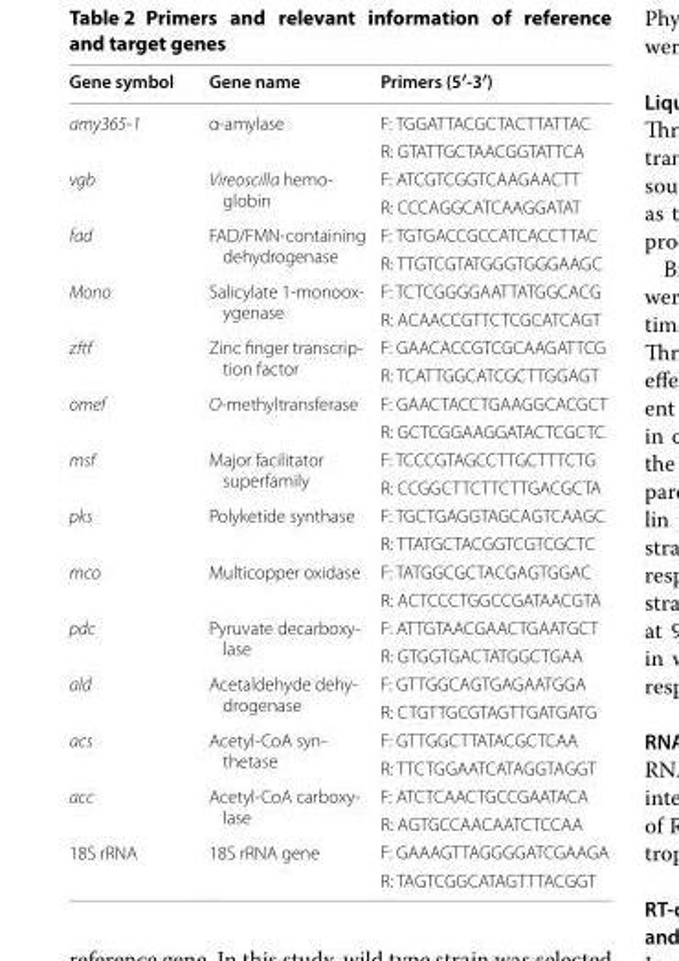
<table><thead><tr><td>Gene symbol</td><td>Gene name</td><td>Primers (5′‑3′)</td></tr></thead><tbody><tr><td rowspan="2">amy365-1</td><td rowspan="2">α-amylase</td><td>F: TGGATTACGCTACTTATTAC</td></tr><tr><td>R: GTATTGCTAACGGTATTCA</td></tr><tr><td rowspan="2">vgb</td><td rowspan="2">Vireoscilla hemo- globin</td><td>F: ATCGTCGGTCAAGAACTT</td></tr><tr><td>R: CCCAGGCATCAAGGATAT</td></tr><tr><td rowspan="2">fad</td><td rowspan="2">FAD/FMN-containing dehydrogenase</td><td>F: TGTGACCGCCATCACCTTAC</td></tr><tr><td>R: TTGTCGTATGGGTGGGAAGC</td></tr><tr><td rowspan="2">Mono</td><td rowspan="2">Salicylate 1-monoox- ygenase</td><td>F: TCTCGGGGAATTATGGCACG</td></tr><tr><td>R: ACAACCGTTCTCGCATCAGT</td></tr><tr><td rowspan="2">zftf</td><td rowspan="2">Zinc finger transcrip- tion factor</td><td>F: GAACACCGTCGCAAGATTCG</td></tr><tr><td>R: TCATTGGCATCGCTTGGAGT</td></tr><tr><td rowspan="2">omef</td><td rowspan="2">O-methyltransferase</td><td>F: GAACTACCTGAAGGCACGCT</td></tr><tr><td>R: GCTCGGAAGGATACTCGCTC</td></tr><tr><td rowspan="2">msf</td><td rowspan="2">Major facilitator superfamily</td><td>F: TCCCGTAGCCTTGCTTTCTG</td></tr><tr><td>R: CCGGCTTCTTCTTGACGCTA</td></tr><tr><td rowspan="2">pks</td><td rowspan="2">Polyketide synthase</td><td>F: TGCTGAGGTAGCAGTCAAGC</td></tr><tr><td>R: TTATGCTACGGTCGTCGCTC</td></tr><tr><td rowspan="2">mco</td><td rowspan="2">Multicopper oxidase</td><td>F: TATGGCGCTACGAGTGGAC</td></tr><tr><td>R: ACTCCCTGGCCGATAACGTA</td></tr><tr><td rowspan="2">pdc</td><td rowspan="2">Pyruvate decarboxy- lase</td><td>F: ATTGTAACGAACTGAATGCT</td></tr><tr><td>R: GTGGTGACTATGGCTGAA</td></tr><tr><td rowspan="2">ald</td><td rowspan="2">Acetaldehyde dehy- drogenase</td><td>F: GTTGGCAGTGAGAATGGA</td></tr><tr><td>R: CTGTTGCGTAGTTGATGATG</td></tr><tr><td rowspan="2">acs</td><td rowspan="2">Acetyl-CoA syn- thetase</td><td>F: GTTGGCTTATACGCTCAA</td></tr><tr><td>R: TTCTGGAATCATAGGTAGGT</td></tr><tr><td rowspan="2">acc</td><td rowspan="2">Acetyl-CoA carboxy- lase</td><td>F: ATCTCAACTGCCGAATACA</td></tr><tr><td>R: AGTGCCAACAATCTCCAA</td></tr><tr><td rowspan="2">18S rRNA</td><td rowspan="2">18S rRNA gene</td><td>F: GAAAGTTAGGGGATCGAAGA</td></tr><tr><td>R: TAGTCGGCATAGTTTACGGT</td></tr></tbody></table>